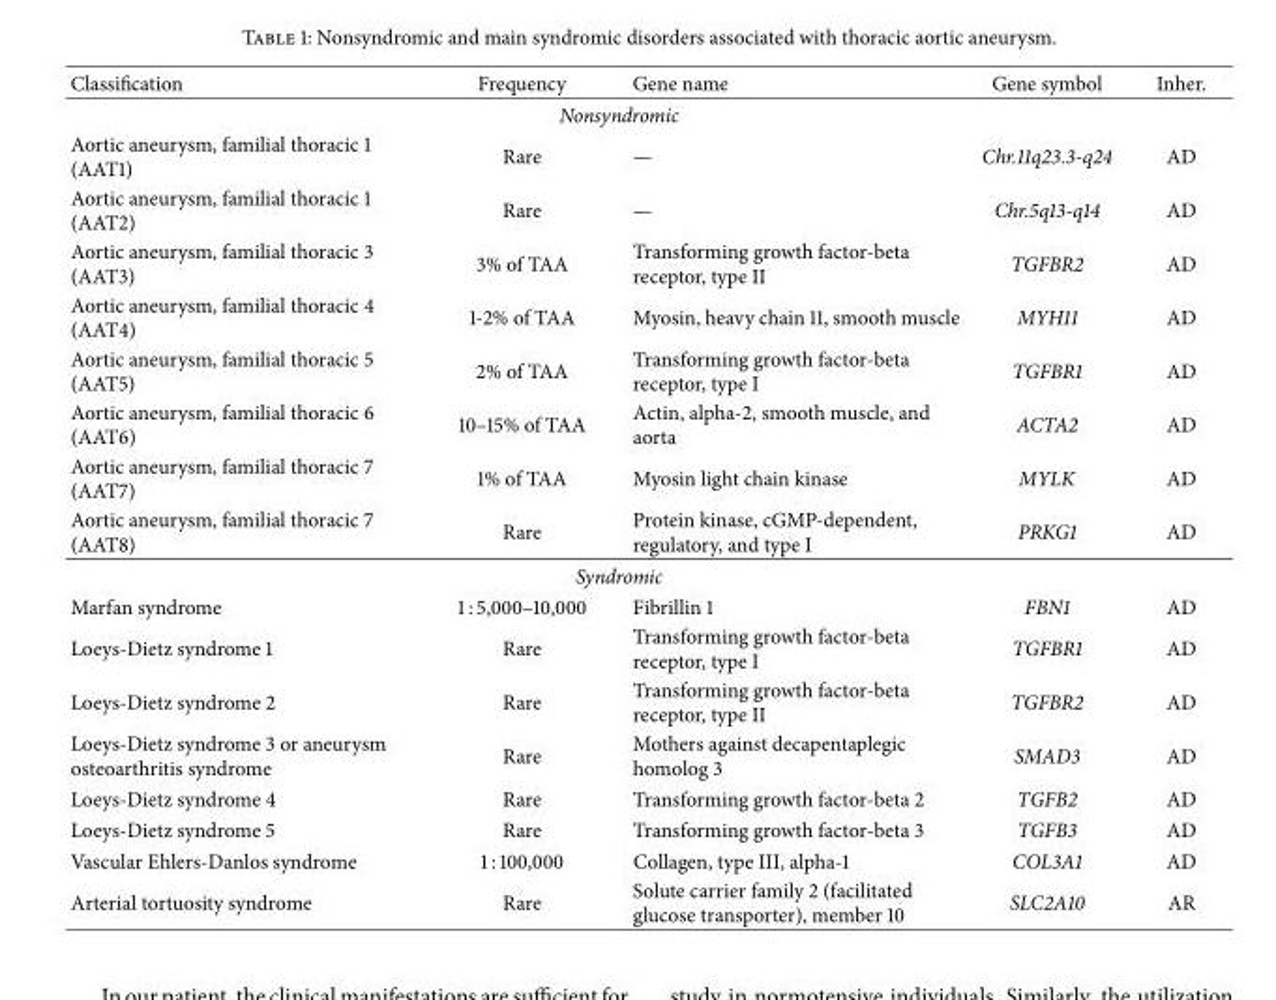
<table><thead><tr><td>Classification</td><td>Frequency</td><td>Gene name</td><td>Gene symbol</td><td>Inher.</td></tr></thead><tbody><tr><td colspan="5">Nonsyndromic</td></tr><tr><td>Aortic aneurysm, familial thoracic 1 (AAT1)</td><td>Rare</td><td>—</td><td>Chr.11q23.3-q24</td><td>AD</td></tr><tr><td>Aortic aneurysm, familial thoracic 1 (AAT2)</td><td>Rare</td><td>—</td><td>Chr.5q13-q14</td><td>AD</td></tr><tr><td>Aortic aneurysm, familial thoracic 3 (AAT3)</td><td>3% of TAA</td><td>Transforming growth factor-beta receptor, type II</td><td>TGFBR2</td><td>AD</td></tr><tr><td>Aortic aneurysm, familial thoracic 4 (AAT4)</td><td>1-2% of TAA</td><td>Myosin, heavy chain 11, smooth muscle</td><td>MYH11</td><td>AD</td></tr><tr><td>Aortic aneurysm, familial thoracic 5 (AAT5)</td><td>2% of TAA</td><td>Transforming growth factor-beta receptor, type I</td><td>TGFBR1</td><td>AD</td></tr><tr><td>Aortic aneurysm, familial thoracic 6 (AAT6)</td><td>10–15% of TAA</td><td>Actin, alpha-2, smooth muscle, and aorta</td><td>ACTA2</td><td>AD</td></tr><tr><td>Aortic aneurysm, familial thoracic 7 (AAT7)</td><td>1% of TAA</td><td>Myosin light chain kinase</td><td>MYLK</td><td>AD</td></tr><tr><td>Aortic aneurysm, familial thoracic 7 (AAT8)</td><td>Rare</td><td>Protein kinase, cGMP-dependent, regulatory, and type I</td><td>PRKG1</td><td>AD</td></tr><tr><td colspan="5">Syndromic</td></tr><tr><td>Marfan syndrome</td><td>1 : 5,000–10,000</td><td>Fibrillin 1</td><td>FBN1</td><td>AD</td></tr><tr><td>Loeys-Dietz syndrome 1</td><td>Rare</td><td>Transforming growth factor-beta receptor, type I</td><td>TGFBR1</td><td>AD</td></tr><tr><td>Loeys-Dietz syndrome 2</td><td>Rare</td><td>Transforming growth factor-beta receptor, type II</td><td>TGFBR2</td><td>AD</td></tr><tr><td>Loeys-Dietz syndrome 3 or aneurysm osteoarthritis syndrome</td><td>Rare</td><td>Mothers against decapentaplegic homolog 3</td><td>SMAD3</td><td>AD</td></tr><tr><td>Loeys-Dietz syndrome 4</td><td>Rare</td><td>Transforming growth factor-beta 2</td><td>TGFB2</td><td>AD</td></tr><tr><td>Loeys-Dietz syndrome 5</td><td>Rare</td><td>Transforming growth factor-beta 3</td><td>TGFB3</td><td>AD</td></tr><tr><td>Vascular Ehlers-Danlos syndrome</td><td>1 : 100,000</td><td>Collagen, type III, alpha-1</td><td>COL3A1</td><td>AD</td></tr><tr><td>Arterial tortuosity syndrome</td><td>Rare</td><td>Solute carrier family 2 (facilitated glucose transporter), member 10</td><td>SLC2A10</td><td>AR</td></tr></tbody></table>